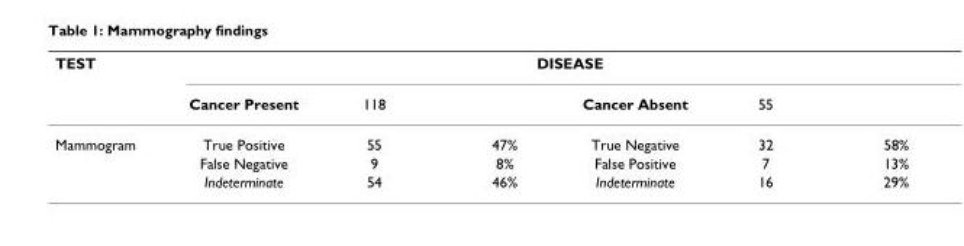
<table><thead><tr><td rowspan="2">TEST</td><td colspan="6">DISEASE</td></tr><tr><td>Cancer Present</td><td>118</td><td></td><td>Cancer Absent</td><td>55</td><td></td></tr></thead><tbody><tr><td rowspan="3">Mammogram</td><td>True Positive</td><td>55</td><td>47%</td><td>True Negative</td><td>32</td><td>58%</td></tr><tr><td>False Negative</td><td>9</td><td>8%</td><td>False Positive</td><td>7</td><td>13%</td></tr><tr><td>Indeterminate</td><td>54</td><td>46%</td><td>Indeterminate</td><td>16</td><td>29%</td></tr></tbody></table>